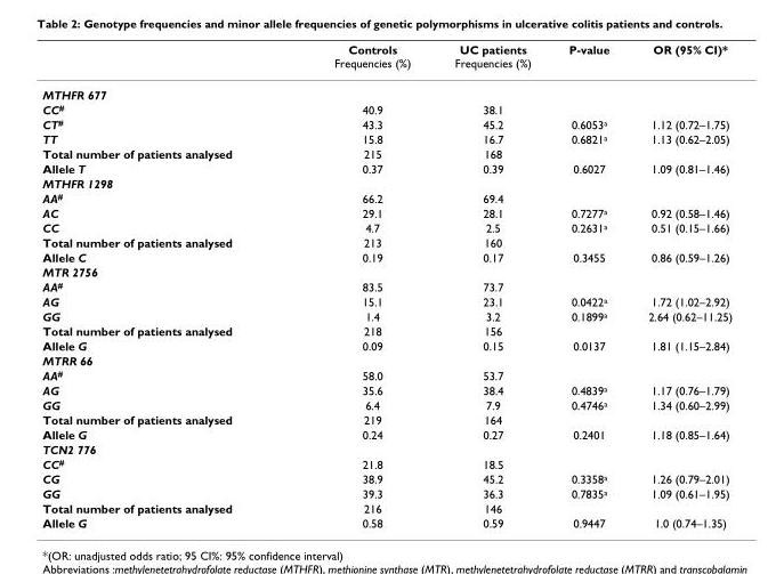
<table><thead><tr><td></td><td>Controls Frequencies (%)</td><td>UC patients Frequencies (%)</td><td>P-value</td><td>OR (95% CI)*</td></tr></thead><tbody><tr><td colspan="5">MTHFR 677</td></tr><tr><td>CC<sup>#</sup></td><td>40.9</td><td>38.1</td><td></td><td></td></tr><tr><td>CT<sup>#</sup></td><td>43.3</td><td>45.2</td><td>0.6053<sup>a</sup></td><td>1.12 (0.72–1.75)</td></tr><tr><td>TT</td><td>15.8</td><td>16.7</td><td>0.6821<sup>a</sup></td><td>1.13 (0.62–2.05)</td></tr><tr><td>Total number of patients analysed</td><td>215</td><td>168</td><td></td><td></td></tr><tr><td>Allele T</td><td>0.37</td><td>0.39</td><td>0.6027</td><td>1.09 (0.81–1.46)</td></tr><tr><td colspan="5">MTHFR 1298</td></tr><tr><td>AA<sup>#</sup></td><td>66.2</td><td>69.4</td><td></td><td></td></tr><tr><td>AC</td><td>29.1</td><td>28.1</td><td>0.7277<sup>a</sup></td><td>0.92 (0.58–1.46)</td></tr><tr><td>CC</td><td>4.7</td><td>2.5</td><td>0.2631<sup>a</sup></td><td>0.51 (0.15–1.66)</td></tr><tr><td>Total number of patients analysed</td><td>213</td><td>160</td><td></td><td></td></tr><tr><td>Allele C</td><td>0.19</td><td>0.17</td><td>0.3455</td><td>0.86 (0.59–1.26)</td></tr><tr><td colspan="5">MTR 2756</td></tr><tr><td>AA<sup>#</sup></td><td>83.5</td><td>73.7</td><td></td><td></td></tr><tr><td>AG</td><td>15.1</td><td>23.1</td><td>0.0422<sup>a</sup></td><td>1.72 (1.02–2.92)</td></tr><tr><td>GG</td><td>1.4</td><td>3.2</td><td>0.1899<sup>a</sup></td><td>2.64 (0.62–11.25)</td></tr><tr><td>Total number of patients analysed</td><td>218</td><td>156</td><td></td><td></td></tr><tr><td>Allele G</td><td>0.09</td><td>0.15</td><td>0.0137</td><td>1.81 (1.15–2.84)</td></tr><tr><td colspan="5">MTRR 66</td></tr><tr><td>AA<sup>#</sup></td><td>58.0</td><td>53.7</td><td></td><td></td></tr><tr><td>AG</td><td>35.6</td><td>38.4</td><td>0.4839<sup>a</sup></td><td>1.17 (0.76–1.79)</td></tr><tr><td>GG</td><td>6.4</td><td>7.9</td><td>0.4746<sup>a</sup></td><td>1.34 (0.60–2.99)</td></tr><tr><td>Total number of patients analysed</td><td>219</td><td>164</td><td></td><td></td></tr><tr><td>Allele G</td><td>0.24</td><td>0.27</td><td>0.2401</td><td>1.18 (0.85–1.64)</td></tr><tr><td colspan="5">TCN2 776</td></tr><tr><td>CC<sup>#</sup></td><td>21.8</td><td>18.5</td><td></td><td></td></tr><tr><td>CG</td><td>38.9</td><td>45.2</td><td>0.3358<sup>a</sup></td><td>1.26 (0.79–2.01)</td></tr><tr><td>GG</td><td>39.3</td><td>36.3</td><td>0.7835<sup>a</sup></td><td>1.09 (0.61–1.95)</td></tr><tr><td>Total number of patients analysed</td><td>216</td><td>146</td><td></td><td></td></tr><tr><td>Allele G</td><td>0.58</td><td>0.59</td><td>0.9447</td><td>1.0 (0.74–1.35)</td></tr></tbody></table>